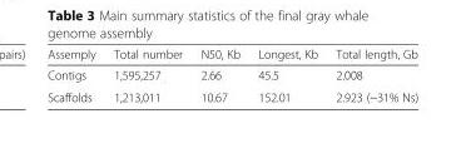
<table><thead><tr><td>Assemply</td><td>Total number</td><td>N50, Kb</td><td>Longest, Kb</td><td>Total length, Gb</td></tr></thead><tbody><tr><td>Contigs</td><td>1,595,257</td><td>2.66</td><td>45.5</td><td>2.008</td></tr><tr><td>Scaffolds</td><td>1,213,011</td><td>10.67</td><td>152.01</td><td>2.923 (~31% Ns)</td></tr></tbody></table>